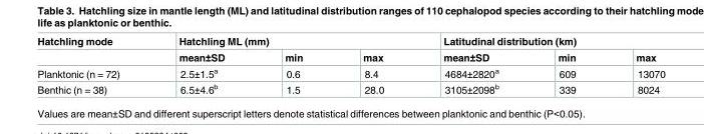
<table><thead><tr><td rowspan="2">Hatchling mode</td><td colspan="3">Hatchling ML (mm)</td><td colspan="3">Latitudinal distribution (km)</td></tr><tr><td>mean±SD</td><td>min</td><td>max</td><td>mean±SD</td><td>min</td><td>max</td></tr></thead><tbody><tr><td>Planktonic (n = 72)</td><td>2.5±1.5<sup>a</sup></td><td>0.6</td><td>8.4</td><td>4684±2820<sup>a</sup></td><td>609</td><td>13070</td></tr><tr><td>Benthic (n = 38)</td><td>6.5±4.6<sup>b</sup></td><td>1.5</td><td>28.0</td><td>3105±2098<sup>b</sup></td><td>339</td><td>8024</td></tr></tbody></table>